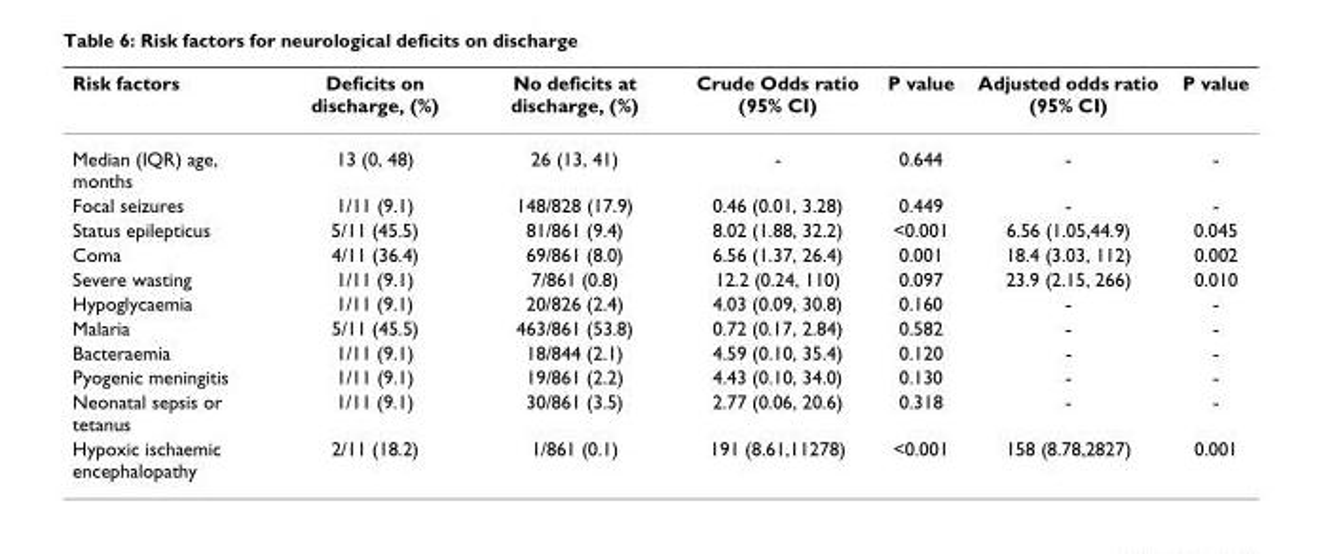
<table><thead><tr><td>Risk factors</td><td>Deficits on discharge, (%)</td><td>No deficits at discharge, (%)</td><td>Crude Odds ratio (95% CI)</td><td>P value</td><td>Adjusted odds ratio (95% CI)</td><td>P value</td></tr></thead><tbody><tr><td>Median (IQR) age, months</td><td>13 (0, 48)</td><td>26 (13, 41)</td><td>-</td><td>0.644</td><td>-</td><td>-</td></tr><tr><td>Focal seizures</td><td>1/11 (9.1)</td><td>148/828 (17.9)</td><td>0.46 (0.01, 3.28)</td><td>0.449</td><td>-</td><td>-</td></tr><tr><td>Status epilepticus</td><td>5/11 (45.5)</td><td>81/861 (9.4)</td><td>8.02 (1.88, 32.2)</td><td>&lt;0.001</td><td>6.56 (1.05,44.9)</td><td>0.045</td></tr><tr><td>Coma</td><td>4/11 (36.4)</td><td>69/861 (8.0)</td><td>6.56 (1.37, 26.4)</td><td>0.001</td><td>18.4 (3.03, 112)</td><td>0.002</td></tr><tr><td>Severe wasting</td><td>1/11 (9.1)</td><td>7/861 (0.8)</td><td>12.2 (0.24, 110)</td><td>0.097</td><td>23.9 (2.15, 266)</td><td>0.010</td></tr><tr><td>Hypoglycaemia</td><td>1/11 (9.1)</td><td>20/826 (2.4)</td><td>4.03 (0.09, 30.8)</td><td>0.160</td><td>-</td><td>-</td></tr><tr><td>Malaria</td><td>5/11 (45.5)</td><td>463/861 (53.8)</td><td>0.72 (0.17, 2.84)</td><td>0.582</td><td>-</td><td>-</td></tr><tr><td>Bacteraemia</td><td>1/11 (9.1)</td><td>18/844 (2.1)</td><td>4.59 (0.10, 35.4)</td><td>0.120</td><td>-</td><td>-</td></tr><tr><td>Pyogenic meningitis</td><td>1/11 (9.1)</td><td>19/861 (2.2)</td><td>4.43 (0.10, 34.0)</td><td>0.130</td><td>-</td><td>-</td></tr><tr><td>Neonatal sepsis or tetanus</td><td>1/11 (9.1)</td><td>30/861 (3.5)</td><td>2.77 (0.06, 20.6)</td><td>0.318</td><td>-</td><td>-</td></tr><tr><td>Hypoxic ischaemic encephalopathy</td><td>2/11 (18.2)</td><td>1/861 (0.1)</td><td>191 (8.61,11278)</td><td>&lt;0.001</td><td>158 (8.78,2827)</td><td>0.001</td></tr></tbody></table>